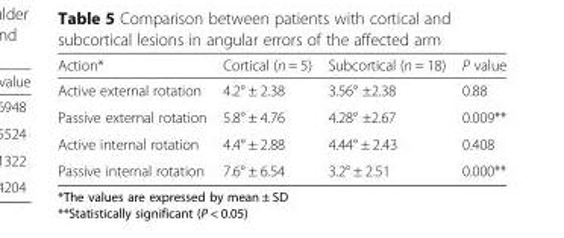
<table><thead><tr><td>Action*</td><td>Cortical (n = 5)</td><td>Subcortical (n = 18)</td><td>P value</td></tr></thead><tbody><tr><td>Active external rotation</td><td>4.2° ± 2.38</td><td>3.56° ±2.38</td><td>0.88</td></tr><tr><td>Passive external rotation</td><td>5.8° ± 4.76</td><td>4.28° ±2.67</td><td>0.009**</td></tr><tr><td>Active internal rotation</td><td>4.4° ± 2.88</td><td>4.44° ± 2.43</td><td>0.408</td></tr><tr><td>Passive internal rotation</td><td>7.6° ± 6.54</td><td>3.2° ± 2.51</td><td>0.000**</td></tr></tbody></table>